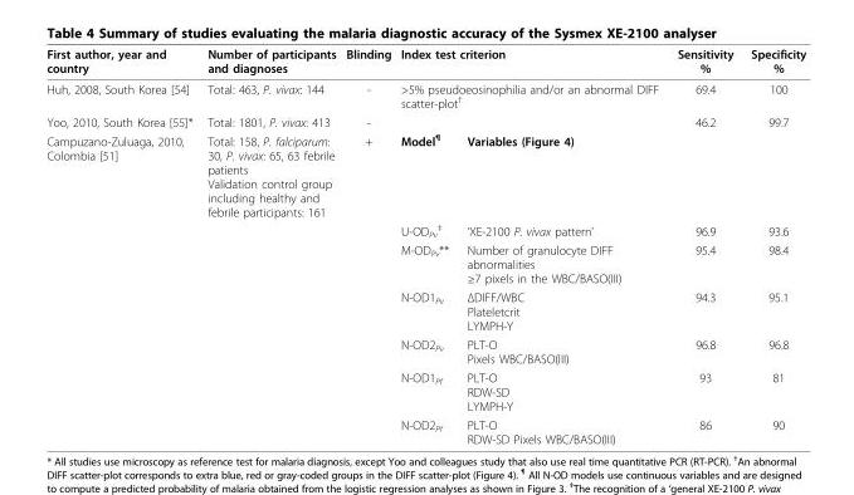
<table><thead><tr><td rowspan="3">First author, year and country Huh, 2008, South Korea [54] Yoo, 2010, South Korea [55]*</td><td rowspan="3">Number of participants and diagnoses Total: 463, P. vivax: 144 Total: 1801, P. vivax: 413</td><td rowspan="3">Blinding - -</td><td rowspan="2" colspan="2">Index test criterion &gt;5% pseudoeosinophilia and/or an abnormal DIFF scatter-plot<sup>†</sup></td><td rowspan="3">Sensitivity % 69.4 46.2</td><td rowspan="3">Specificity % 100 99.7</td></tr><tr></tr><tr><td></td><td></td></tr></thead><tbody><tr><td rowspan="7">Campuzano-Zuluaga, 2010, Colombia [51]</td><td>Total: 158, P. falciparum: 30, P. vivax: 65, 63 febrile patients Validation control group including healthy and febrile participants: 161</td><td>+</td><td>Model<sup>¶</sup></td><td>Variables (Figure 4)</td><td></td><td></td></tr><tr><td></td><td></td><td>U-OD<sub>Pv</sub> <sup>‡</sup></td><td>’XE-2100 P. vivax pattern’</td><td>96.9</td><td>93.6</td></tr><tr><td></td><td></td><td>M-OD<sub>Pv</sub>**</td><td>Number of granulocyte DIFF abnormalities ≥7 pixels in the WBC/BASO(III)</td><td>95.4</td><td>98.4</td></tr><tr><td></td><td></td><td>N-OD1<sub>Pv</sub></td><td>ΔDIFF/WBC Plateletcrit LYMPH-Y</td><td>94.3</td><td>95.1</td></tr><tr><td></td><td></td><td>N-OD2<sub>Pv</sub></td><td>PLT-O Pixels WBC/BASO(III)</td><td>96.8</td><td>96.8</td></tr><tr><td></td><td></td><td>N-OD1<sub>Pf</sub></td><td>PLT-O RDW-SD LYMPH-Y</td><td>93</td><td>81</td></tr><tr><td></td><td></td><td>N-OD2<sub>Pf</sub></td><td>PLT-O RDW-SD Pixels WBC/BASO(III)</td><td>86</td><td>90</td></tr></tbody></table>